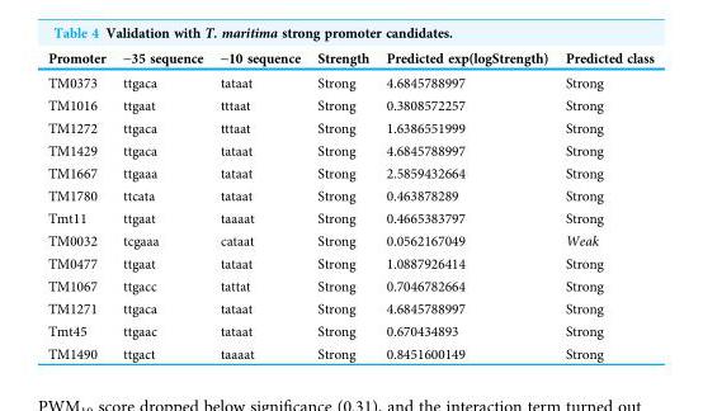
<table><thead><tr><td>Promoter</td><td>-35 sequence</td><td>-10 sequence</td><td>Strength</td><td>Predicted exp(logStrength)</td><td>Predicted class</td></tr></thead><tbody><tr><td>TM0373</td><td>ttgaca</td><td>tataat</td><td>Strong</td><td>4.6845788997</td><td>Strong</td></tr><tr><td>TM1016</td><td>ttgaat</td><td>tttaat</td><td>Strong</td><td>0.3808572257</td><td>Strong</td></tr><tr><td>TM1272</td><td>ttgaca</td><td>tttaat</td><td>Strong</td><td>1.6386551999</td><td>Strong</td></tr><tr><td>TM1429</td><td>ttgaca</td><td>tataat</td><td>Strong</td><td>4.6845788997</td><td>Strong</td></tr><tr><td>TM1667</td><td>ttgaaa</td><td>tataat</td><td>Strong</td><td>2.5859432664</td><td>Strong</td></tr><tr><td>TM1780</td><td>ttcata</td><td>tataat</td><td>Strong</td><td>0.463878289</td><td>Strong</td></tr><tr><td>Tmt11</td><td>ttgaat</td><td>taaaat</td><td>Strong</td><td>0.4665383797</td><td>Strong</td></tr><tr><td>TM0032</td><td>tcgaaa</td><td>cataat</td><td>Strong</td><td>0.0562167049</td><td>Weak</td></tr><tr><td>TM0477</td><td>ttgaat</td><td>tataat</td><td>Strong</td><td>1.0887926414</td><td>Strong</td></tr><tr><td>TM1067</td><td>ttgacc</td><td>tattat</td><td>Strong</td><td>0.7046782664</td><td>Strong</td></tr><tr><td>TM1271</td><td>ttgaca</td><td>tataat</td><td>Strong</td><td>4.6845788997</td><td>Strong</td></tr><tr><td>Tmt45</td><td>ttgaac</td><td>tataat</td><td>Strong</td><td>0.670434893</td><td>Strong</td></tr><tr><td>TM1490</td><td>ttgact</td><td>taaaat</td><td>Strong</td><td>0.8451600149</td><td>Strong</td></tr></tbody></table>